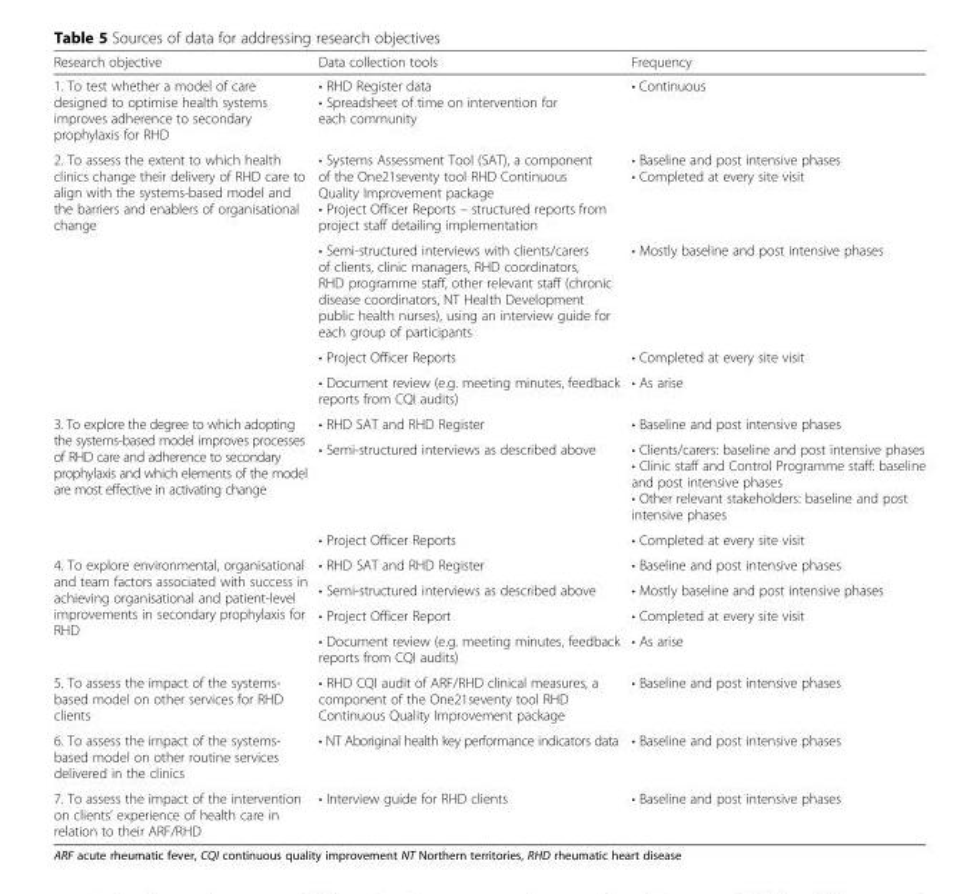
<table><thead><tr><td>Research objective</td><td>Data collection tools</td><td>Frequency</td></tr></thead><tbody><tr><td>1. To test whether a model of care designed to optimise health systems improves adherence to secondary prophylaxis for RHD</td><td>• RHD Register data • Spreadsheet of time on intervention for each community</td><td>• Continuous</td></tr><tr><td rowspan="4">2. To assess the extent to which health clinics change their delivery of RHD care to align with the systems-based model and the barriers and enablers of organisational change</td><td>• Systems Assessment Tool (SAT), a component of the One21seventy tool RHD Continuous Quality Improvement package • Project Officer Reports – structured reports from project staff detailing implementation</td><td>• Baseline and post intensive phases • Completed at every site visit</td></tr><tr><td>• Semi-structured interviews with clients/carers of clients, clinic managers, RHD coordinators, RHD programme staff, other relevant staff (chronic disease coordinators, NT Health Development public health nurses), using an interview guide for each group of participants</td><td>• Mostly baseline and post intensive phases</td></tr><tr><td>• Project Officer Reports</td><td>• Completed at every site visit</td></tr><tr><td>• Document review (e.g. meeting minutes, feedback reports from CQI audits)</td><td>• As arise</td></tr><tr><td rowspan="3">3. To explore the degree to which adopting the systems-based model improves processes of RHD care and adherence to secondary prophylaxis and which elements of the model are most effective in activating change</td><td>• RHD SAT and RHD Register</td><td>• Baseline and post intensive phases</td></tr><tr><td>• Semi-structured interviews as described above</td><td>• Clients/carers: baseline and post intensive phases • Clinic staff and Control Programme staff: baseline and post intensive phases • Other relevant stakeholders: baseline and post intensive phases</td></tr><tr><td>• Project Officer Reports</td><td>• Completed at every site visit</td></tr><tr><td rowspan="4">4. To explore environmental, organisational and team factors associated with success in achieving organisational and patient-level improvements in secondary prophylaxis for RHD</td><td>• RHD SAT and RHD Register</td><td>• Baseline and post intensive phases</td></tr><tr><td>• Semi-structured interviews as described above</td><td>• Mostly baseline and post intensive phases</td></tr><tr><td>• Project Officer Report</td><td>• Completed at every site visit</td></tr><tr><td>• Document review (e.g. meeting minutes, feedback reports from CQI audits)</td><td>• As arise</td></tr><tr><td>5. To assess the impact of the systems- based model on other services for RHD clients</td><td>• RHD CQI audit of ARF/RHD clinical measures, a component of the One21seventy tool RHD Continuous Quality Improvement package</td><td>• Baseline and post intensive phases</td></tr><tr><td>6. To assess the impact of the systems- based model on other routine services delivered in the clinics</td><td>• NT Aboriginal health key performance indicators data</td><td>• Baseline and post intensive phases</td></tr><tr><td>7. To assess the impact of the intervention on clients’ experience of health care in relation to their ARF/RHD</td><td>• Interview guide for RHD clients</td><td>• Baseline and post intensive phases</td></tr></tbody></table>